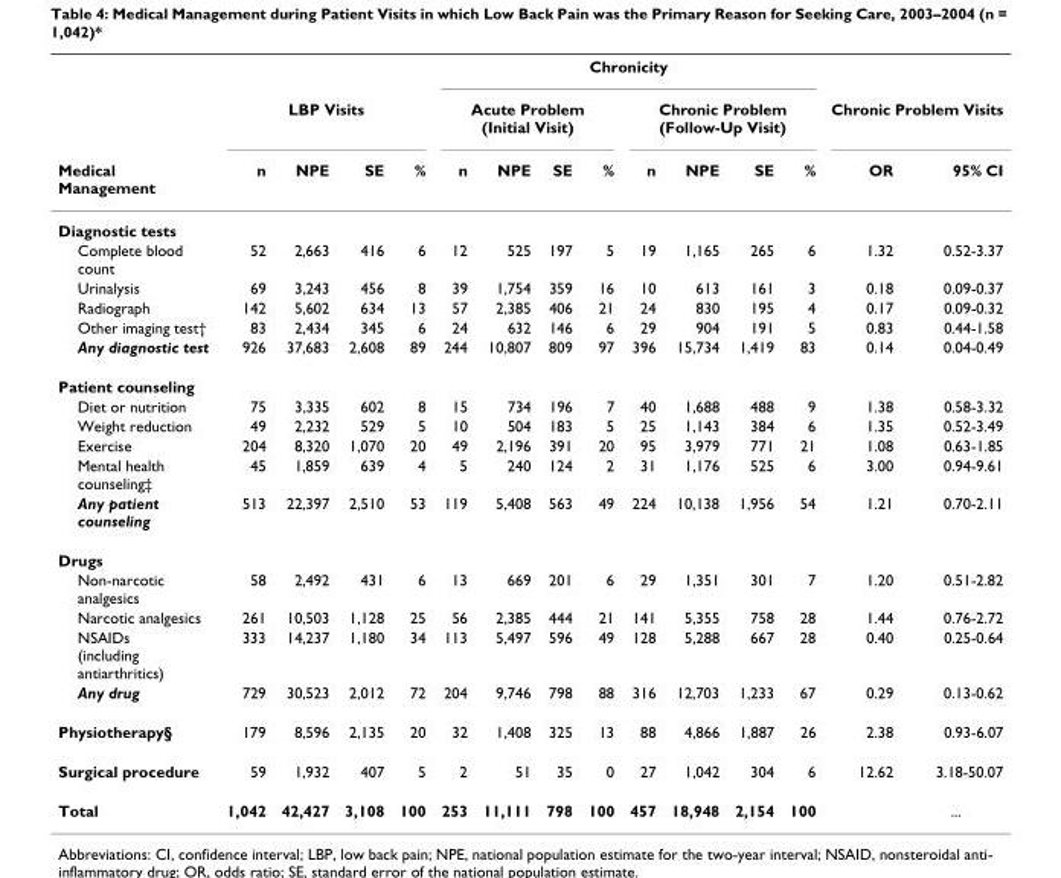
<table><thead><tr><td rowspan="3">Medical Management</td><td></td><td></td><td></td><td></td><td colspan="8">Chronicity</td><td></td><td></td></tr><tr><td colspan="4">LBP Visits</td><td colspan="4">Acute Problem (Initial Visit)</td><td colspan="4">Chronic Problem (Follow-Up Visit)</td><td colspan="2">Chronic Problem Visits</td></tr><tr><td>n</td><td>NPE</td><td>SE</td><td>%</td><td>n</td><td>NPE</td><td>SE</td><td>%</td><td>n</td><td>NPE</td><td>SE</td><td>%</td><td>OR</td><td>95% CI</td></tr></thead><tbody><tr><td colspan="15">Diagnostic tests</td></tr><tr><td>Complete blood count</td><td>52</td><td>2,663</td><td>416</td><td>6</td><td>12</td><td>525</td><td>197</td><td>5</td><td>19</td><td>1,165</td><td>265</td><td>6</td><td>1.32</td><td>0.52-3.37</td></tr><tr><td>Urinalysis</td><td>69</td><td>3,243</td><td>456</td><td>8</td><td>39</td><td>1,754</td><td>359</td><td>16</td><td>10</td><td>613</td><td>161</td><td>3</td><td>0.18</td><td>0.09-0.37</td></tr><tr><td>Radiograph</td><td>142</td><td>5,602</td><td>634</td><td>13</td><td>57</td><td>2,385</td><td>406</td><td>21</td><td>24</td><td>830</td><td>195</td><td>4</td><td>0.17</td><td>0.09-0.32</td></tr><tr><td>Other imaging test†</td><td>83</td><td>2,434</td><td>345</td><td>6</td><td>24</td><td>632</td><td>146</td><td>6</td><td>29</td><td>904</td><td>191</td><td>5</td><td>0.83</td><td>0.44-1.58</td></tr><tr><td>Any diagnostic test</td><td>926</td><td>37,683</td><td>2,608</td><td>89</td><td>244</td><td>10,807</td><td>809</td><td>97</td><td>396</td><td>15,734</td><td>1,419</td><td>83</td><td>0.14</td><td>0.04-0.49</td></tr><tr><td colspan="15">Patient counseling</td></tr><tr><td>Diet or nutrition</td><td>75</td><td>3,335</td><td>602</td><td>8</td><td>15</td><td>734</td><td>196</td><td>7</td><td>40</td><td>1,688</td><td>488</td><td>9</td><td>1.38</td><td>0.58-3.32</td></tr><tr><td>Weight reduction</td><td>49</td><td>2,232</td><td>529</td><td>5</td><td>10</td><td>504</td><td>183</td><td>5</td><td>25</td><td>1,143</td><td>384</td><td>6</td><td>1.35</td><td>0.52-3.49</td></tr><tr><td>Exercise</td><td>204</td><td>8,320</td><td>1,070</td><td>20</td><td>49</td><td>2,196</td><td>391</td><td>20</td><td>95</td><td>3,979</td><td>771</td><td>21</td><td>1.08</td><td>0.63-1.85</td></tr><tr><td>Mental health counseling‡</td><td>45</td><td>1,859</td><td>639</td><td>4</td><td>5</td><td>240</td><td>124</td><td>2</td><td>31</td><td>1,176</td><td>525</td><td>6</td><td>3.00</td><td>0.94-9.61</td></tr><tr><td>Any patient counseling</td><td>513</td><td>22,397</td><td>2,510</td><td>53</td><td>119</td><td>5,408</td><td>563</td><td>49</td><td>224</td><td>10,138</td><td>1,956</td><td>54</td><td>1.21</td><td>0.70-2.11</td></tr><tr><td colspan="15">Drugs</td></tr><tr><td>Non-narcotic analgesics</td><td>58</td><td>2,492</td><td>431</td><td>6</td><td>13</td><td>669</td><td>201</td><td>6</td><td>29</td><td>1,351</td><td>301</td><td>7</td><td>1.20</td><td>0.51-2.82</td></tr><tr><td>Narcotic analgesics</td><td>261</td><td>10,503</td><td>1,128</td><td>25</td><td>56</td><td>2,385</td><td>444</td><td>21</td><td>141</td><td>5,355</td><td>758</td><td>28</td><td>1.44</td><td>0.76-2.72</td></tr><tr><td>NSAIDs (including antiarthritics)</td><td>333</td><td>14,237</td><td>1,180</td><td>34</td><td>113</td><td>5,497</td><td>596</td><td>49</td><td>128</td><td>5,288</td><td>667</td><td>28</td><td>0.40</td><td>0.25-0.64</td></tr><tr><td>Any drug</td><td>729</td><td>30,523</td><td>2,012</td><td>72</td><td>204</td><td>9,746</td><td>798</td><td>88</td><td>316</td><td>12,703</td><td>1,233</td><td>67</td><td>0.29</td><td>0.13-0.62</td></tr><tr><td>Physiotherapy§</td><td>179</td><td>8,596</td><td>2,135</td><td>20</td><td>32</td><td>1,408</td><td>325</td><td>13</td><td>88</td><td>4,866</td><td>1,887</td><td>26</td><td>2.38</td><td>0.93-6.07</td></tr><tr><td>Surgical procedure</td><td>59</td><td>1,932</td><td>407</td><td>5</td><td>2</td><td>51</td><td>35</td><td>0</td><td>27</td><td>1,042</td><td>304</td><td>6</td><td>12.62</td><td>3.18-50.07</td></tr><tr><td>Total</td><td>1,042</td><td>42,427</td><td>3,108</td><td>100</td><td>253</td><td>11,111</td><td>798</td><td>100</td><td>457</td><td>18,948</td><td>2,154</td><td>100</td><td></td><td>...</td></tr></tbody></table>